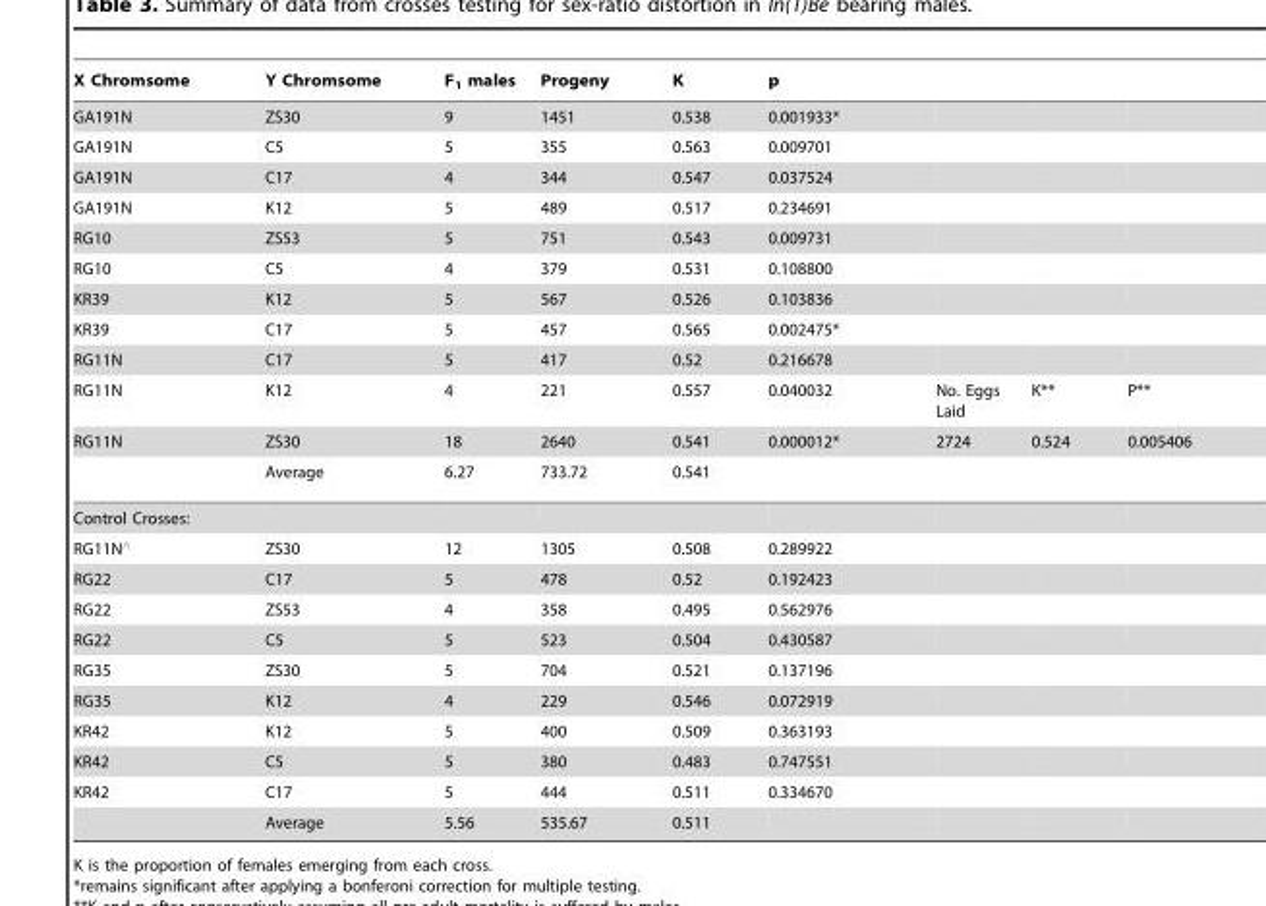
<table><thead><tr><td>X Chromsome</td><td>Y Chromsome</td><td>F<sub>1</sub> males</td><td>Progeny</td><td>K</td><td>p</td><td></td><td></td><td></td></tr></thead><tbody><tr><td>GA191N</td><td>ZS30</td><td>9</td><td>1451</td><td>0.538</td><td>0.001933*</td><td></td><td></td><td></td></tr><tr><td>GA191N</td><td>C5</td><td>5</td><td>355</td><td>0.563</td><td>0.009701</td><td></td><td></td><td></td></tr><tr><td>GA191N</td><td>C17</td><td>4</td><td>344</td><td>0.547</td><td>0.037524</td><td></td><td></td><td></td></tr><tr><td>GA191N</td><td>K12</td><td>5</td><td>489</td><td>0.517</td><td>0.234691</td><td></td><td></td><td></td></tr><tr><td>RG10</td><td>ZS53</td><td>5</td><td>751</td><td>0.543</td><td>0.009731</td><td></td><td></td><td></td></tr><tr><td>RG10</td><td>C5</td><td>4</td><td>379</td><td>0.531</td><td>0.108800</td><td></td><td></td><td></td></tr><tr><td>KR39</td><td>K12</td><td>5</td><td>567</td><td>0.526</td><td>0.103836</td><td></td><td></td><td></td></tr><tr><td>KR39</td><td>C17</td><td>5</td><td>457</td><td>0.565</td><td>0.002475*</td><td></td><td></td><td></td></tr><tr><td>RG11N</td><td>C17</td><td>5</td><td>417</td><td>0.52</td><td>0.216678</td><td></td><td></td><td></td></tr><tr><td>RG11N</td><td>K12</td><td>4</td><td>221</td><td>0.557</td><td>0.040032</td><td>No. Eggs Laid</td><td>K**</td><td>P**</td></tr><tr><td rowspan="2">RG11N</td><td>ZS30</td><td>18</td><td>2640</td><td>0.541</td><td>0.000012*</td><td>2724</td><td>0.524</td><td>0.005406</td></tr><tr><td>Average</td><td>6.27</td><td>733.72</td><td>0.541</td><td></td><td></td><td></td><td></td></tr><tr><td colspan="9">Control Crosses:</td></tr><tr><td>RG11N‘</td><td>ZS30</td><td>12</td><td>1305</td><td>0.508</td><td>0.289922</td><td></td><td></td><td></td></tr><tr><td>RG22</td><td>C17</td><td>5</td><td>478</td><td>0.52</td><td>0.192423</td><td></td><td></td><td></td></tr><tr><td>RG22</td><td>ZS53</td><td>4</td><td>358</td><td>0.495</td><td>0.562976</td><td></td><td></td><td></td></tr><tr><td>RG22</td><td>C5</td><td>5</td><td>523</td><td>0.504</td><td>0.430587</td><td></td><td></td><td></td></tr><tr><td>RG35</td><td>ZS30</td><td>5</td><td>704</td><td>0.521</td><td>0.137196</td><td></td><td></td><td></td></tr><tr><td>RG35</td><td>K12</td><td>4</td><td>229</td><td>0.546</td><td>0.072919</td><td></td><td></td><td></td></tr><tr><td>KR42</td><td>K12</td><td>5</td><td>400</td><td>0.509</td><td>0.363193</td><td></td><td></td><td></td></tr><tr><td>KR42</td><td>C5</td><td>5</td><td>380</td><td>0.483</td><td>0.747551</td><td></td><td></td><td></td></tr><tr><td rowspan="2">KR42</td><td>C17</td><td>5</td><td>444</td><td>0.511</td><td>0.334670</td><td></td><td></td><td></td></tr><tr><td>Average</td><td>5.56</td><td>535.67</td><td>0.511</td><td></td><td></td><td></td><td></td></tr></tbody></table>